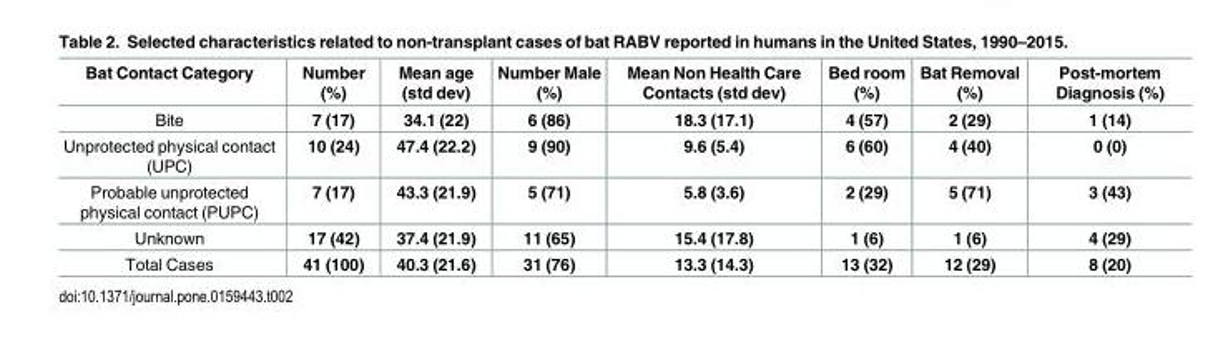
<table><thead><tr><td>Bat Contact Category</td><td>Number (%)</td><td>Mean age (std dev)</td><td>Number Male (%)</td><td>Mean Non Health Care Contacts (std dev)</td><td>Bed room (%)</td><td>Bat Removal (%)</td><td>Post-mortem Diagnosis (%)</td></tr></thead><tbody><tr><td>Bite</td><td>7 (17)</td><td>34.1 (22)</td><td>6 (86)</td><td>18.3 (17.1)</td><td>4 (57)</td><td>2 (29)</td><td>1 (14)</td></tr><tr><td>Unprotected physical contact (UPC)</td><td>10 (24)</td><td>47.4 (22.2)</td><td>9 (90)</td><td>9.6 (5.4)</td><td>6 (60)</td><td>4 (40)</td><td>0 (0)</td></tr><tr><td>Probable unprotected physical contact (PUPC)</td><td>7 (17)</td><td>43.3 (21.9)</td><td>5 (71)</td><td>5.8 (3.6)</td><td>2 (29)</td><td>5 (71)</td><td>3 (43)</td></tr><tr><td>Unknown</td><td>17 (42)</td><td>37.4 (21.9)</td><td>11 (65)</td><td>15.4 (17.8)</td><td>1 (6)</td><td>1 (6)</td><td>4 (29)</td></tr><tr><td>Total Cases</td><td>41 (100)</td><td>40.3 (21.6)</td><td>31 (76)</td><td>13.3 (14.3)</td><td>13 (32)</td><td>12 (29)</td><td>8 (20)</td></tr></tbody></table>